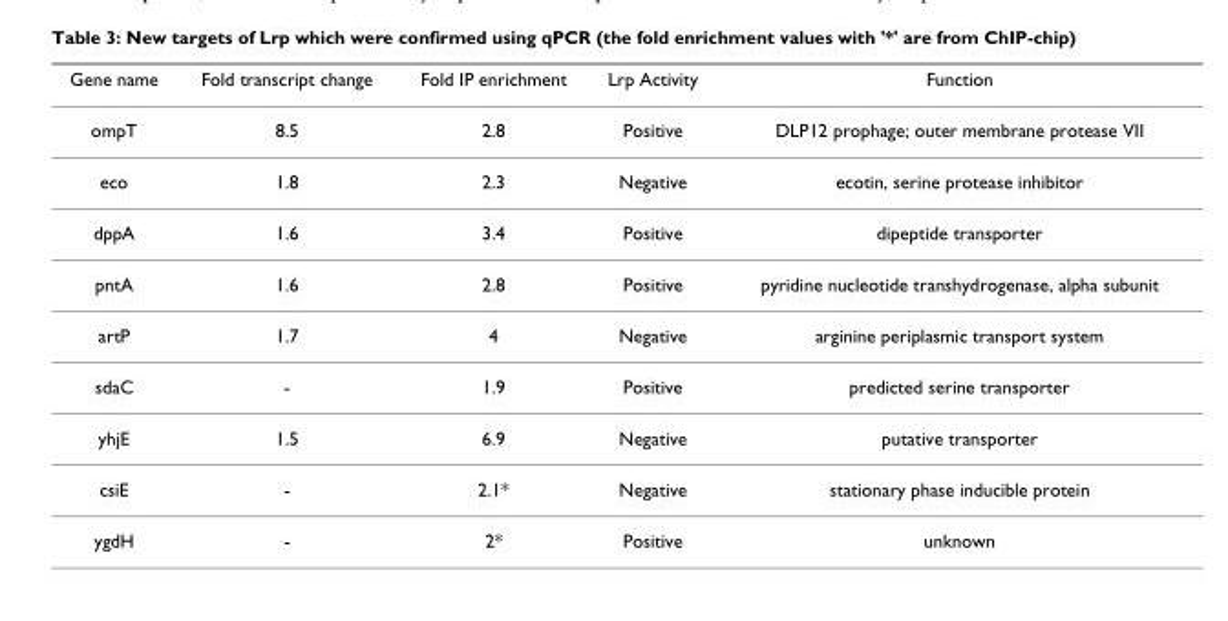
<table><thead><tr><td>Gene name</td><td>Fold transcript change</td><td>Fold IP enrichment</td><td>Lrp Activity</td><td>Function</td></tr></thead><tbody><tr><td>ompT</td><td>8.5</td><td>2.8</td><td>Positive</td><td>DLP12 prophage; outer membrane protease VII</td></tr><tr><td>eco</td><td>1.8</td><td>2.3</td><td>Negative</td><td>ecotin, serine protease inhibitor</td></tr><tr><td>dppA</td><td>1.6</td><td>3.4</td><td>Positive</td><td>dipeptide transporter</td></tr><tr><td>pntA</td><td>1.6</td><td>2.8</td><td>Positive</td><td>pyridine nucleotide transhydrogenase, alpha subunit</td></tr><tr><td>artP</td><td>1.7</td><td>4</td><td>Negative</td><td>arginine periplasmic transport system</td></tr><tr><td>sdaC</td><td>-</td><td>1.9</td><td>Positive</td><td>predicted serine transporter</td></tr><tr><td>yhjE</td><td>1.5</td><td>6.9</td><td>Negative</td><td>putative transporter</td></tr><tr><td>csiE</td><td>-</td><td>2.1*</td><td>Negative</td><td>stationary phase inducible protein</td></tr><tr><td>ygdH</td><td>-</td><td>2*</td><td>Positive</td><td>unknown</td></tr></tbody></table>